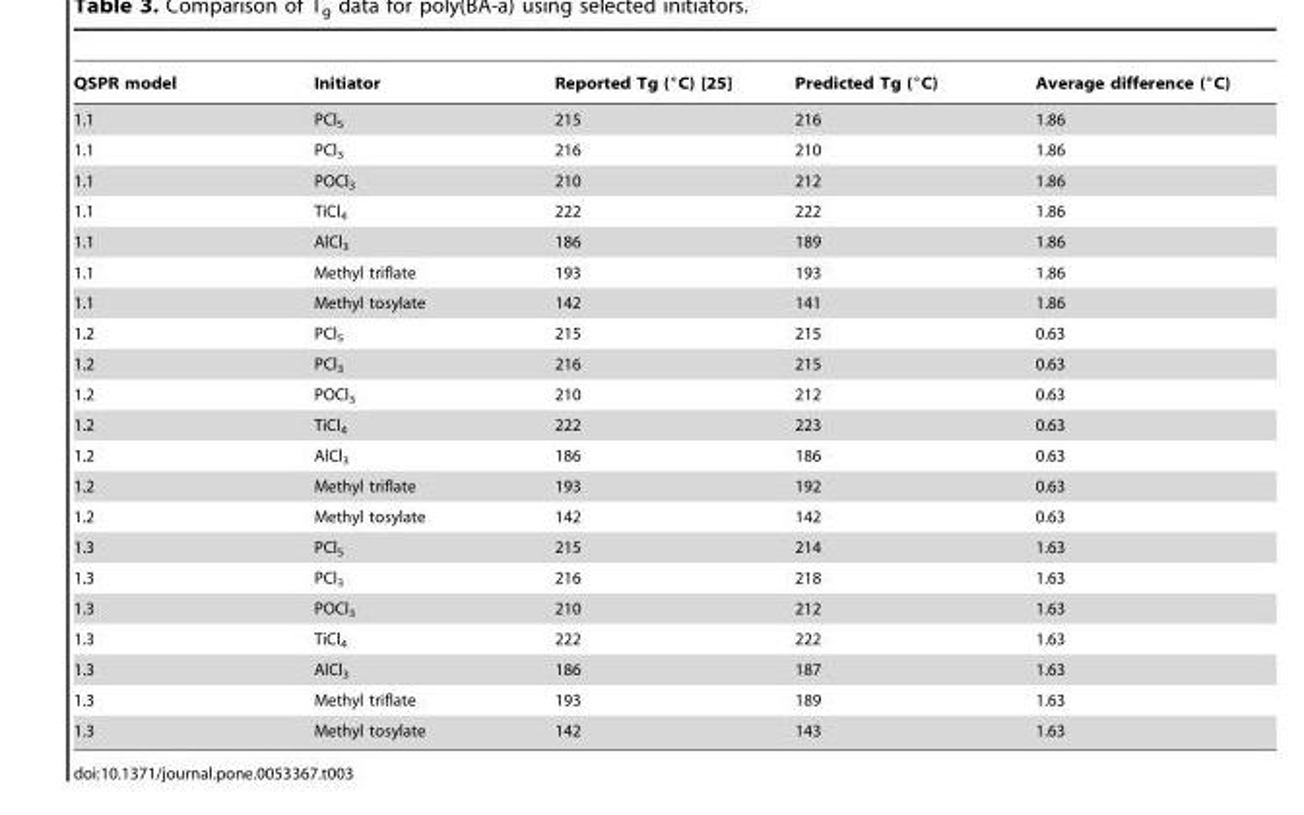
<table><thead><tr><td>QSPR model</td><td>Initiator</td><td>Reported Tg (°C) [25]</td><td>Predicted Tg (°C)</td><td>Average difference (°C)</td></tr></thead><tbody><tr><td>1.1</td><td>PCl<sub>5</sub></td><td>215</td><td>216</td><td>1.86</td></tr><tr><td>1.1</td><td>PCl<sub>3</sub></td><td>216</td><td>210</td><td>1.86</td></tr><tr><td>1.1</td><td>POCl<sub>3</sub></td><td>210</td><td>212</td><td>1.86</td></tr><tr><td>1.1</td><td>TiCl<sub>4</sub></td><td>222</td><td>222</td><td>1.86</td></tr><tr><td>1.1</td><td>AlCl<sub>3</sub></td><td>186</td><td>189</td><td>1.86</td></tr><tr><td>1.1</td><td>Methyl triflate</td><td>193</td><td>193</td><td>1.86</td></tr><tr><td>1.1</td><td>Methyl tosylate</td><td>142</td><td>141</td><td>1.86</td></tr><tr><td>1.2</td><td>PCl<sub>5</sub></td><td>215</td><td>215</td><td>0.63</td></tr><tr><td>1.2</td><td>PCl<sub>3</sub></td><td>216</td><td>215</td><td>0.63</td></tr><tr><td>1.2</td><td>POCl<sub>3</sub></td><td>210</td><td>212</td><td>0.63</td></tr><tr><td>1.2</td><td>TiCl<sub>4</sub></td><td>222</td><td>223</td><td>0.63</td></tr><tr><td>1.2</td><td>AlCl<sub>3</sub></td><td>186</td><td>186</td><td>0.63</td></tr><tr><td>1.2</td><td>Methyl triflate</td><td>193</td><td>192</td><td>0.63</td></tr><tr><td>1.2</td><td>Methyl tosylate</td><td>142</td><td>142</td><td>0.63</td></tr><tr><td>1.3</td><td>PCl<sub>5</sub></td><td>215</td><td>214</td><td>1.63</td></tr><tr><td>1.3</td><td>PCl<sub>3</sub></td><td>216</td><td>218</td><td>1.63</td></tr><tr><td>1.3</td><td>POCl<sub>3</sub></td><td>210</td><td>212</td><td>1.63</td></tr><tr><td>1.3</td><td>TiCl<sub>4</sub></td><td>222</td><td>222</td><td>1.63</td></tr><tr><td>1.3</td><td>AlCl<sub>3</sub></td><td>186</td><td>187</td><td>1.63</td></tr><tr><td>1.3</td><td>Methyl triflate</td><td>193</td><td>189</td><td>1.63</td></tr><tr><td>1.3</td><td>Methyl tosylate</td><td>142</td><td>143</td><td>1.63</td></tr></tbody></table>